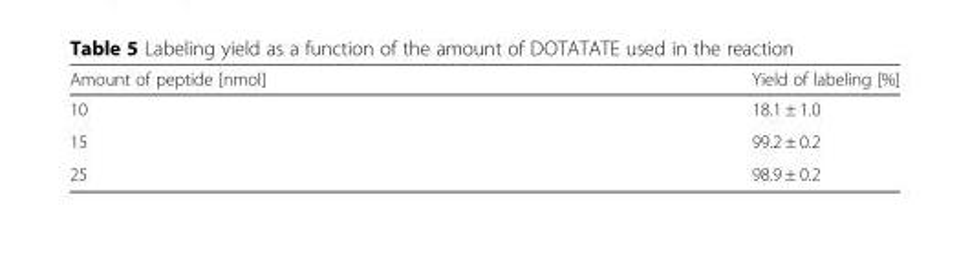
<table><thead><tr><td>Amount of peptide [nmol]</td><td>Yield of labeling [%]</td></tr></thead><tbody><tr><td>10</td><td>18.1 ± 1.0</td></tr><tr><td>15</td><td>99.2 ± 0.2</td></tr><tr><td>25</td><td>98.9 ± 0.2</td></tr></tbody></table>